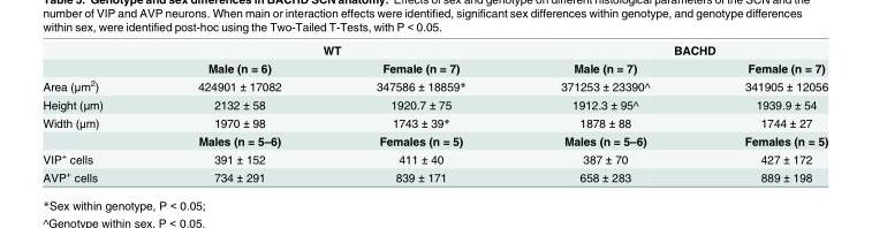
<table><thead><tr><td rowspan="2"></td><td colspan="2">WT</td><td colspan="2">BACHD</td></tr><tr><td>Male (n = 6)</td><td>Female (n = 7)</td><td>Male (n = 7)</td><td>Female (n = 7)</td></tr></thead><tbody><tr><td>Area (μm<sup>2</sup>)</td><td>424901 ± 17082</td><td>347586 ± 18859*</td><td>371253 ± 23390^</td><td>341905 ± 12056</td></tr><tr><td>Height (μm)</td><td>2132 ± 58</td><td>1920.7 ± 75</td><td>1912.3 ± 95^</td><td>1939.9 ± 54</td></tr><tr><td rowspan="2">Width (μm)</td><td>1970 ± 98</td><td>1743 ± 39*</td><td>1878 ± 88</td><td>1744 ± 27</td></tr><tr><td>Males (n = 5–6)</td><td>Females (n = 5)</td><td>Males (n = 5–6)</td><td>Females (n = 5)</td></tr><tr><td>VIP<sup>+</sup> cells</td><td>391 ± 152</td><td>411 ± 40</td><td>387 ± 70</td><td>427 ± 172</td></tr><tr><td>AVP<sup>+</sup> cells</td><td>734 ± 291</td><td>839 ± 171</td><td>658 ± 283</td><td>889 ± 198</td></tr></tbody></table>